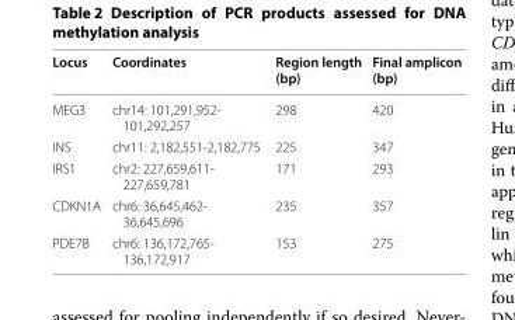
<table><thead><tr><td>Locus</td><td>Coordinates</td><td>Region length (bp)</td><td>Final amplicon (bp)</td></tr></thead><tbody><tr><td>MEG3</td><td>chr14: 101,291,952- 101,292,257</td><td>298</td><td>420</td></tr><tr><td>INS</td><td>chr11: 2,182,551-2,182,775</td><td>225</td><td>347</td></tr><tr><td>IRS1</td><td>chr2: 227,659,611- 227,659,781</td><td>171</td><td>293</td></tr><tr><td>CDKN1A</td><td>chr6: 36,645,462- 36,645,696</td><td>235</td><td>357</td></tr><tr><td>PDE7B</td><td>chr6: 136,172,765- 136,172,917</td><td>153</td><td>275</td></tr></tbody></table>